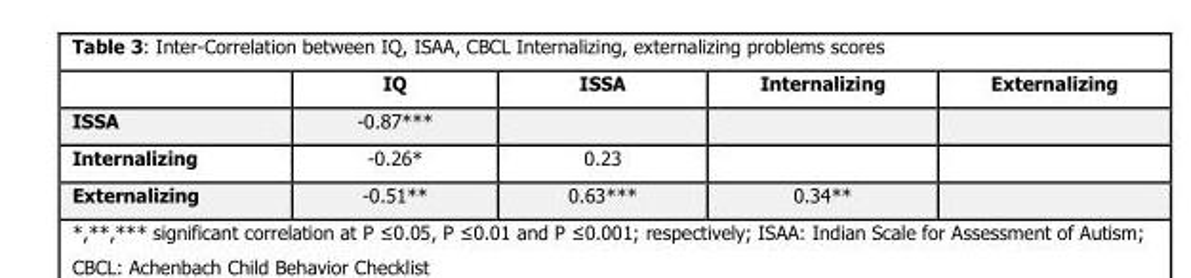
<table><thead><tr><td></td><td>IQ</td><td>ISSA</td><td>Internalizing</td><td>Externalizing</td></tr></thead><tbody><tr><td>ISSA</td><td>-0.87***</td><td></td><td></td><td></td></tr><tr><td>Internalizing</td><td>-0.26*</td><td>0.23</td><td></td><td></td></tr><tr><td>Externalizing</td><td>-0.51**</td><td>0.63***</td><td>0.34**</td><td></td></tr></tbody></table>